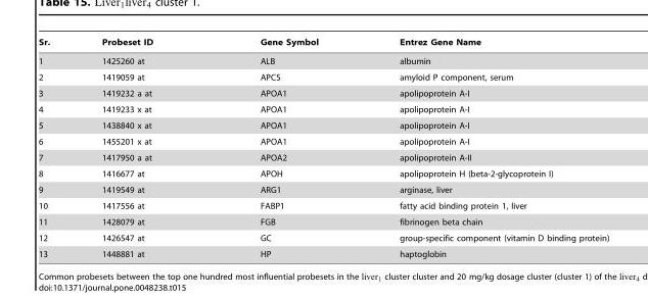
<table><thead><tr><td>Sr.</td><td>Probeset ID</td><td>Gene Symbol</td><td>Entrez Gene Name</td></tr></thead><tbody><tr><td>1</td><td>1425260 at</td><td>ALB</td><td>albumin</td></tr><tr><td>2</td><td>1419059 at</td><td>APCS</td><td>amyloid P component, serum</td></tr><tr><td>3</td><td>1419232 a at</td><td>APOA1</td><td>apolipoprotein A-I</td></tr><tr><td>4</td><td>1419233 x at</td><td>APOA1</td><td>apolipoprotein A-I</td></tr><tr><td>5</td><td>1438840 x at</td><td>APOA1</td><td>apolipoprotein A-I</td></tr><tr><td>6</td><td>1455201 x at</td><td>APOA1</td><td>apolipoprotein A-I</td></tr><tr><td>7</td><td>1417950 a at</td><td>APOA2</td><td>apolipoprotein A-II</td></tr><tr><td>8</td><td>1416677 at</td><td>APOH</td><td>apolipoprotein H (beta-2-glycoprotein I)</td></tr><tr><td>9</td><td>1419549 at</td><td>ARG1</td><td>arginase, liver</td></tr><tr><td>10</td><td>1417556 at</td><td>FABP1</td><td>fatty acid binding protein 1, liver</td></tr><tr><td>11</td><td>1428079 at</td><td>FGB</td><td>fibrinogen beta chain</td></tr><tr><td>12</td><td>1426547 at</td><td>GC</td><td>group-specific component (vitamin D binding protein)</td></tr><tr><td>13</td><td>1448881 at</td><td>HP</td><td>haptoglobin</td></tr></tbody></table>